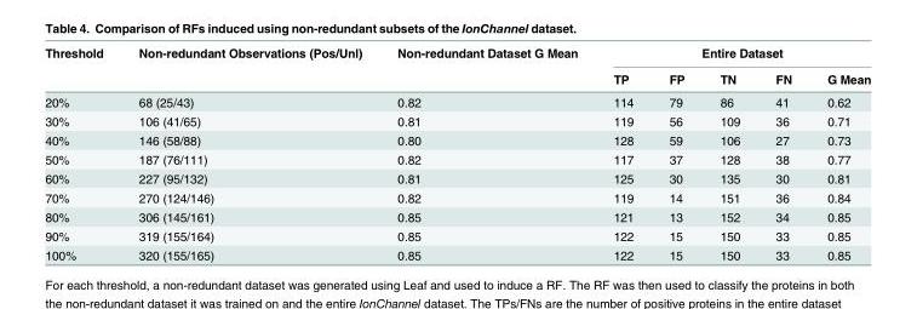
<table><thead><tr><td rowspan="2">Threshold</td><td rowspan="2">Non-redundant Observations (Pos/Unl)</td><td rowspan="2">Non-redundant Dataset G Mean</td><td colspan="5">Entire Dataset</td></tr><tr><td>TP</td><td>FP</td><td>TN</td><td>FN</td><td>G Mean</td></tr></thead><tbody><tr><td>20%</td><td>68 (25/43)</td><td>0.82</td><td>114</td><td>79</td><td>86</td><td>41</td><td>0.62</td></tr><tr><td>30%</td><td>106 (41/65)</td><td>0.81</td><td>119</td><td>56</td><td>109</td><td>36</td><td>0.71</td></tr><tr><td>40%</td><td>146 (58/88)</td><td>0.80</td><td>128</td><td>59</td><td>106</td><td>27</td><td>0.73</td></tr><tr><td>50%</td><td>187 (76/111)</td><td>0.82</td><td>117</td><td>37</td><td>128</td><td>38</td><td>0.77</td></tr><tr><td>60%</td><td>227 (95/132)</td><td>0.81</td><td>125</td><td>30</td><td>135</td><td>30</td><td>0.81</td></tr><tr><td>70%</td><td>270 (124/146)</td><td>0.82</td><td>119</td><td>14</td><td>151</td><td>36</td><td>0.84</td></tr><tr><td>80%</td><td>306 (145/161)</td><td>0.85</td><td>121</td><td>13</td><td>152</td><td>34</td><td>0.85</td></tr><tr><td>90%</td><td>319 (155/164)</td><td>0.85</td><td>122</td><td>15</td><td>150</td><td>33</td><td>0.85</td></tr><tr><td>100%</td><td>320 (155/165)</td><td>0.85</td><td>122</td><td>15</td><td>150</td><td>33</td><td>0.85</td></tr></tbody></table>